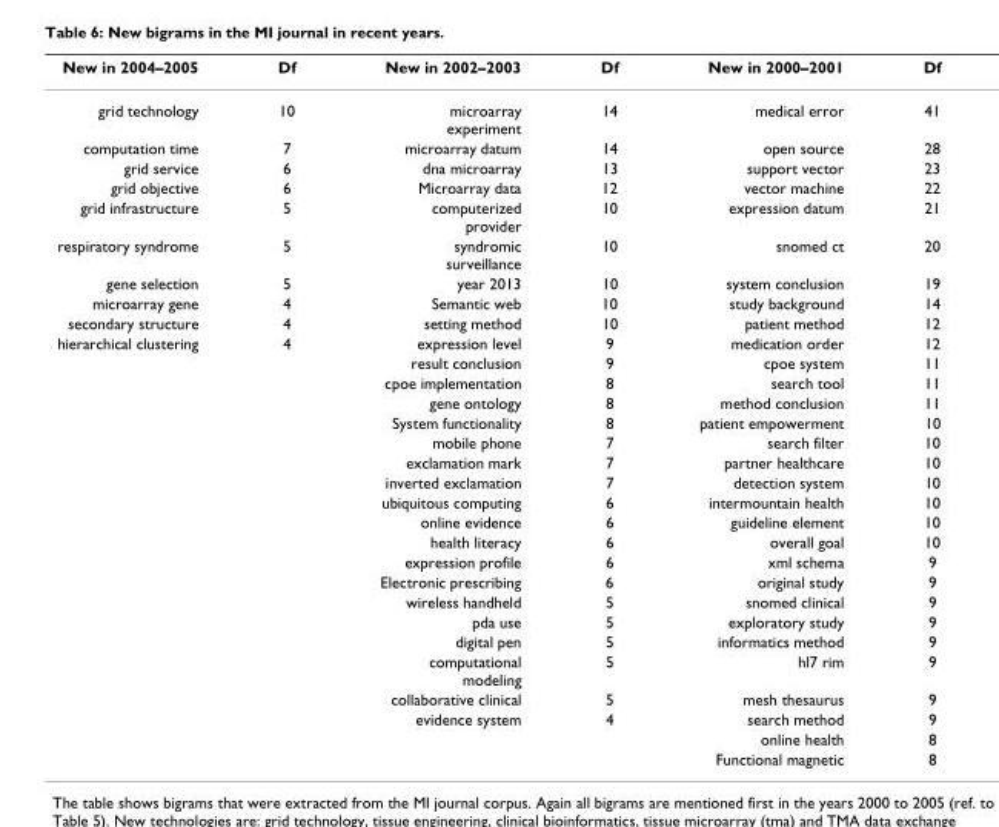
<table><thead><tr><td>New in 2004–2005</td><td>Df</td><td>New in 2002–2003</td><td>Df</td><td>New in 2000–2001</td><td>Df</td></tr></thead><tbody><tr><td>grid technology</td><td>10</td><td>microarray experiment</td><td>14</td><td>medical error</td><td>41</td></tr><tr><td>computation time</td><td>7</td><td>microarray datum</td><td>14</td><td>open source</td><td>28</td></tr><tr><td>grid service</td><td>6</td><td>dna microarray</td><td>13</td><td>support vector</td><td>23</td></tr><tr><td>grid objective</td><td>6</td><td>Microarray data</td><td>12</td><td>vector machine</td><td>22</td></tr><tr><td>grid infrastructure</td><td>5</td><td>computerized provider</td><td>10</td><td>expression datum</td><td>21</td></tr><tr><td>respiratory syndrome</td><td>5</td><td>syndromic surveillance</td><td>10</td><td>snomed ct</td><td>20</td></tr><tr><td>gene selection</td><td>5</td><td>year 2013</td><td>10</td><td>system conclusion</td><td>19</td></tr><tr><td>microarray gene</td><td>4</td><td>Semantic web</td><td>10</td><td>study background</td><td>14</td></tr><tr><td>secondary structure</td><td>4</td><td>setting method</td><td>10</td><td>patient method</td><td>12</td></tr><tr><td rowspan="21">hierarchical clustering</td><td>4</td><td>expression level</td><td>9</td><td>medication order</td><td>12</td></tr><tr><td></td><td>result conclusion</td><td>9</td><td>cpoe system</td><td>11</td></tr><tr><td></td><td>cpoe implementation</td><td>8</td><td>search tool</td><td>11</td></tr><tr><td></td><td>gene ontology</td><td>8</td><td>method conclusion</td><td>11</td></tr><tr><td></td><td>System functionality</td><td>8</td><td>patient empowerment</td><td>10</td></tr><tr><td></td><td>mobile phone</td><td>7</td><td>search filter</td><td>10</td></tr><tr><td></td><td>exclamation mark</td><td>7</td><td>partner healthcare</td><td>10</td></tr><tr><td></td><td>inverted exclamation</td><td>7</td><td>detection system</td><td>10</td></tr><tr><td></td><td>ubiquitous computing</td><td>6</td><td>intermountain health</td><td>10</td></tr><tr><td></td><td>online evidence</td><td>6</td><td>guideline element</td><td>10</td></tr><tr><td></td><td>health literacy</td><td>6</td><td>overall goal</td><td>10</td></tr><tr><td></td><td>expression profile</td><td>6</td><td>xml schema</td><td>9</td></tr><tr><td></td><td>Electronic prescribing</td><td>6</td><td>original study</td><td>9</td></tr><tr><td></td><td>wireless handheld</td><td>5</td><td>snomed clinical</td><td>9</td></tr><tr><td></td><td>pda use</td><td>5</td><td>exploratory study</td><td>9</td></tr><tr><td></td><td>digital pen</td><td>5</td><td>informatics method</td><td>9</td></tr><tr><td></td><td>computational modeling</td><td>5</td><td>hl7 rim</td><td>9</td></tr><tr><td></td><td>collaborative clinical</td><td>5</td><td>mesh thesaurus</td><td>9</td></tr><tr><td></td><td>evidence system</td><td>4</td><td>search method</td><td>9</td></tr><tr><td></td><td></td><td></td><td>online health</td><td>8</td></tr><tr><td></td><td></td><td></td><td>Functional magnetic</td><td>8</td></tr></tbody></table>